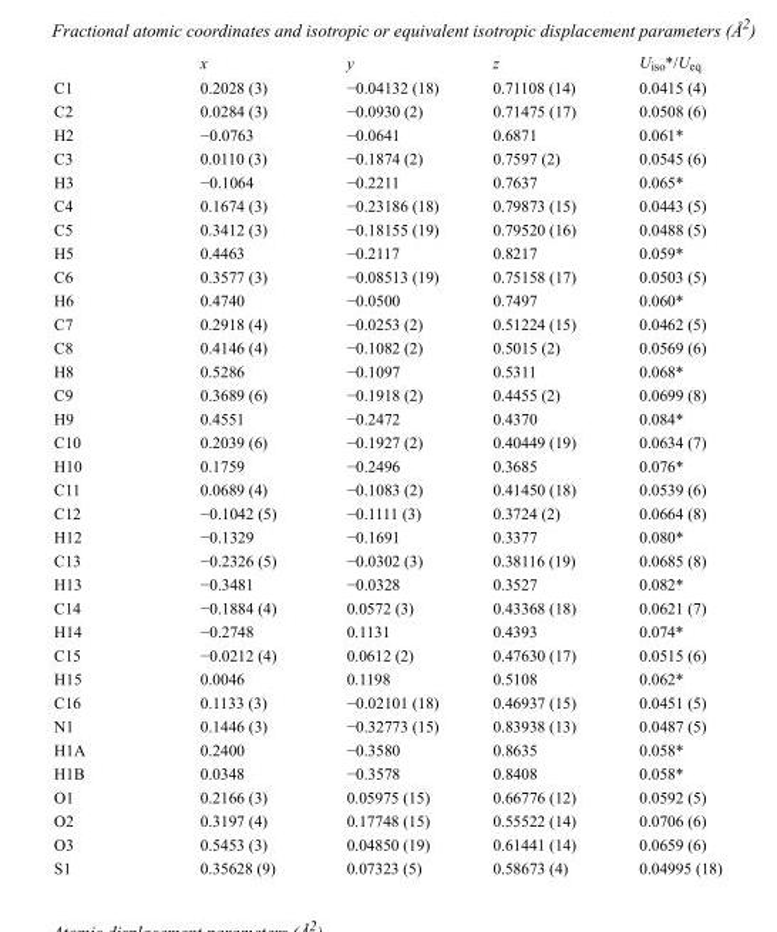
<table><thead><tr><td></td><td>x</td><td>y</td><td>z</td><td>U<sub>iso</sub>*/U<sub>eq</sub></td></tr></thead><tbody><tr><td>C1</td><td>0.2028 (3)</td><td>−0.04132 (18)</td><td>0.71108 (14)</td><td>0.0415 (4)</td></tr><tr><td>C2</td><td>0.0284 (3)</td><td>−0.0930 (2)</td><td>0.71475 (17)</td><td>0.0508 (6)</td></tr><tr><td>H2</td><td>−0.0763</td><td>−0.0641</td><td>0.6871</td><td>0.061*</td></tr><tr><td>C3</td><td>0.0110 (3)</td><td>−0.1874 (2)</td><td>0.7597 (2)</td><td>0.0545 (6)</td></tr><tr><td>H3</td><td>−0.1064</td><td>−0.2211</td><td>0.7637</td><td>0.065*</td></tr><tr><td>C4</td><td>0.1674 (3)</td><td>−0.23186 (18)</td><td>0.79873 (15)</td><td>0.0443 (5)</td></tr><tr><td>C5</td><td>0.3412 (3)</td><td>−0.18155 (19)</td><td>0.79520 (16)</td><td>0.0488 (5)</td></tr><tr><td>H5</td><td>0.4463</td><td>−0.2117</td><td>0.8217</td><td>0.059*</td></tr><tr><td>C6</td><td>0.3577 (3)</td><td>−0.08513 (19)</td><td>0.75158 (17)</td><td>0.0503 (5)</td></tr><tr><td>H6</td><td>0.4740</td><td>−0.0500</td><td>0.7497</td><td>0.060*</td></tr><tr><td>C7</td><td>0.2918 (4)</td><td>−0.0253 (2)</td><td>0.51224 (15)</td><td>0.0462 (5)</td></tr><tr><td>C8</td><td>0.4146 (4)</td><td>−0.1082 (2)</td><td>0.5015 (2)</td><td>0.0569 (6)</td></tr><tr><td>H8</td><td>0.5286</td><td>−0.1097</td><td>0.5311</td><td>0.068*</td></tr><tr><td>C9</td><td>0.3689 (6)</td><td>−0.1918 (2)</td><td>0.4455 (2)</td><td>0.0699 (8)</td></tr><tr><td>H9</td><td>0.4551</td><td>−0.2472</td><td>0.4370</td><td>0.084*</td></tr><tr><td>C10</td><td>0.2039 (6)</td><td>−0.1927 (2)</td><td>0.40449 (19)</td><td>0.0634 (7)</td></tr><tr><td>H10</td><td>0.1759</td><td>−0.2496</td><td>0.3685</td><td>0.076*</td></tr><tr><td>C11</td><td>0.0689 (4)</td><td>−0.1083 (2)</td><td>0.41450 (18)</td><td>0.0539 (6)</td></tr><tr><td>C12</td><td>−0.1042 (5)</td><td>−0.1111 (3)</td><td>0.3724 (2)</td><td>0.0664 (8)</td></tr><tr><td>H12</td><td>−0.1329</td><td>−0.1691</td><td>0.3377</td><td>0.080*</td></tr><tr><td>C13</td><td>−0.2326 (5)</td><td>−0.0302 (3)</td><td>0.38116 (19)</td><td>0.0685 (8)</td></tr><tr><td>H13</td><td>−0.3481</td><td>−0.0328</td><td>0.3527</td><td>0.082*</td></tr><tr><td>C14</td><td>−0.1884 (4)</td><td>0.0572 (3)</td><td>0.43368 (18)</td><td>0.0621 (7)</td></tr><tr><td>H14</td><td>−0.2748</td><td>0.1131</td><td>0.4393</td><td>0.074*</td></tr><tr><td>C15</td><td>−0.0212 (4)</td><td>0.0612 (2)</td><td>0.47630 (17)</td><td>0.0515 (6)</td></tr><tr><td>H15</td><td>0.0046</td><td>0.1198</td><td>0.5108</td><td>0.062*</td></tr><tr><td>C16</td><td>0.1133 (3)</td><td>−0.02101 (18)</td><td>0.46937 (15)</td><td>0.0451 (5)</td></tr><tr><td>N1</td><td>0.1446 (3)</td><td>−0.32773 (15)</td><td>0.83938 (13)</td><td>0.0487 (5)</td></tr><tr><td>H1A</td><td>0.2400</td><td>−0.3580</td><td>0.8635</td><td>0.058*</td></tr><tr><td>H1B</td><td>0.0348</td><td>−0.3578</td><td>0.8408</td><td>0.058*</td></tr><tr><td>O1</td><td>0.2166 (3)</td><td>0.05975 (15)</td><td>0.66776 (12)</td><td>0.0592 (5)</td></tr><tr><td>O2</td><td>0.3197 (4)</td><td>0.17748 (15)</td><td>0.55522 (14)</td><td>0.0706 (6)</td></tr><tr><td>O3</td><td>0.5453 (3)</td><td>0.04850 (19)</td><td>0.61441 (14)</td><td>0.0659 (6)</td></tr><tr><td>S1</td><td>0.35628 (9)</td><td>0.07323 (5)</td><td>0.58673 (4)</td><td>0.04995 (18)</td></tr></tbody></table>